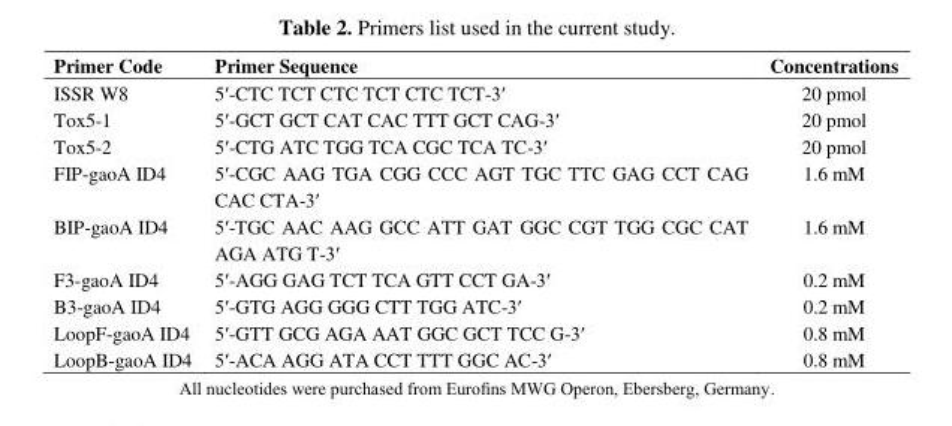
<table><thead><tr><td>Primer Code</td><td>Primer Sequence</td><td>Concentrations</td></tr></thead><tbody><tr><td>ISSR W8</td><td>5′-CTC TCT CTC TCT CTC TCT-3′</td><td>20 pmol</td></tr><tr><td>Tox5-1</td><td>5′-GCT GCT CAT CAC TTT GCT CAG-3′</td><td>20 pmol</td></tr><tr><td>Tox5-2</td><td>5′-CTG ATC TGG TCA CGC TCA TC-3′</td><td>20 pmol</td></tr><tr><td>FIP-gaoA ID4</td><td>5′-CGC AAG TGA CGG CCC AGT TGC TTC GAG CCT CAG CAC CTA-3′</td><td>1.6 mM</td></tr><tr><td>BIP-gaoA ID4</td><td>5′-TGC AAC AAG GCC ATT GAT GGC CGT TGG CGC CAT AGA ATG T-3′</td><td>1.6 mM</td></tr><tr><td>F3-gaoA ID4</td><td>5′-AGG GAG TCT TCA GTT CCT GA-3′</td><td>0.2 mM</td></tr><tr><td>B3-gaoA ID4</td><td>5′-GTG AGG GGG CTT TGG ATC-3′</td><td>0.2 mM</td></tr><tr><td>LoopF-gaoA ID4</td><td>5′-GTT GCG AGA AAT GGC GCT TCC G-3′</td><td>0.8 mM</td></tr><tr><td>LoopB-gaoA ID4</td><td>5′-ACA AGG ATA CCT TTT GGC AC-3′</td><td>0.8 mM</td></tr></tbody></table>